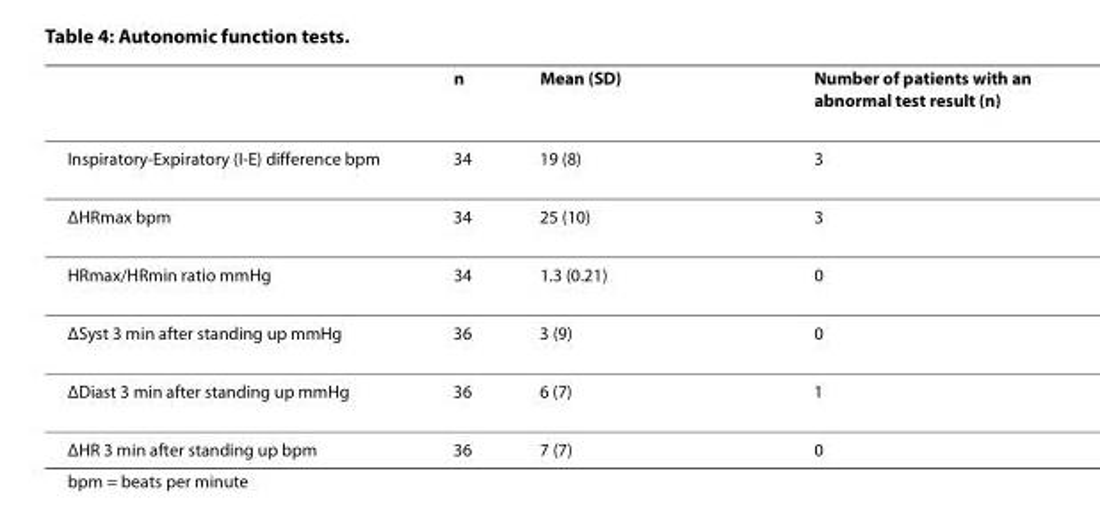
<table><thead><tr><td></td><td>n</td><td>Mean (SD)</td><td>Number of patients with an abnormal test result (n)</td></tr></thead><tbody><tr><td>Inspiratory-Expiratory (I-E) difference bpm</td><td>34</td><td>19 (8)</td><td>3</td></tr><tr><td>ΔHRmax bpm</td><td>34</td><td>25 (10)</td><td>3</td></tr><tr><td>HRmax/HRmin ratio mmHg</td><td>34</td><td>1.3 (0.21)</td><td>0</td></tr><tr><td>ΔSyst 3 min after standing up mmHg</td><td>36</td><td>3 (9)</td><td>0</td></tr><tr><td>ΔDiast 3 min after standing up mmHg</td><td>36</td><td>6 (7)</td><td>1</td></tr><tr><td>ΔHR 3 min after standing up bpm</td><td>36</td><td>7 (7)</td><td>0</td></tr></tbody></table>